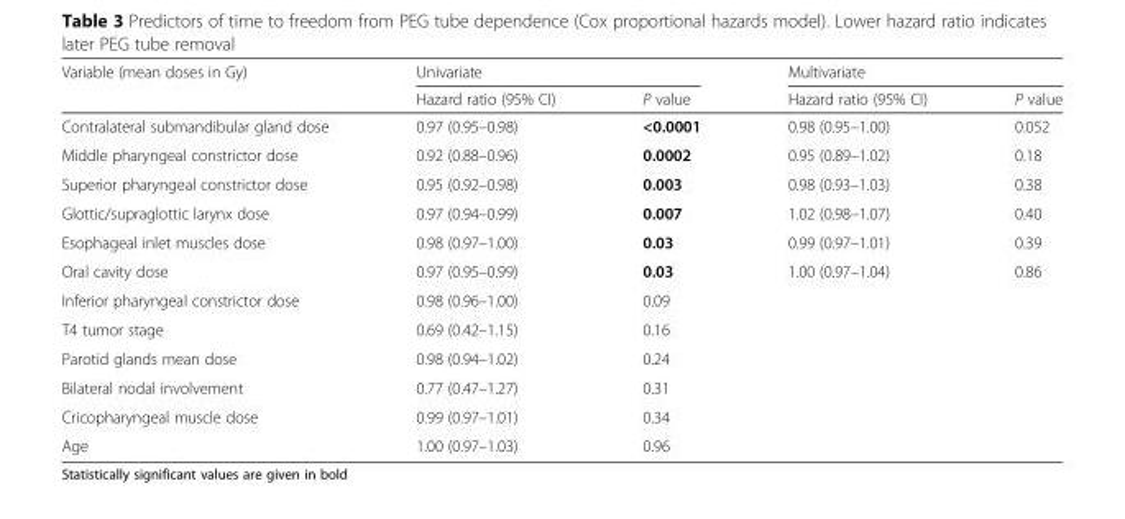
<table><thead><tr><td rowspan="2">Variable (mean doses in Gy)</td><td colspan="2">Univariate</td><td colspan="2">Multivariate</td></tr><tr><td>Hazard ratio (95% CI)</td><td>P value</td><td>Hazard ratio (95% CI)</td><td>P value</td></tr></thead><tbody><tr><td>Contralateral submandibular gland dose</td><td>0.97 (0.95–0.98)</td><td>&lt;0.0001</td><td>0.98 (0.95–1.00)</td><td>0.052</td></tr><tr><td>Middle pharyngeal constrictor dose</td><td>0.92 (0.88–0.96)</td><td>0.0002</td><td>0.95 (0.89–1.02)</td><td>0.18</td></tr><tr><td>Superior pharyngeal constrictor dose</td><td>0.95 (0.92–0.98)</td><td>0.003</td><td>0.98 (0.93–1.03)</td><td>0.38</td></tr><tr><td>Glottic/supraglottic larynx dose</td><td>0.97 (0.94–0.99)</td><td>0.007</td><td>1.02 (0.98–1.07)</td><td>0.40</td></tr><tr><td>Esophageal inlet muscles dose</td><td>0.98 (0.97–1.00)</td><td>0.03</td><td>0.99 (0.97–1.01)</td><td>0.39</td></tr><tr><td>Oral cavity dose</td><td>0.97 (0.95–0.99)</td><td>0.03</td><td>1.00 (0.97–1.04)</td><td>0.86</td></tr><tr><td>Inferior pharyngeal constrictor dose</td><td>0.98 (0.96–1.00)</td><td>0.09</td><td></td><td></td></tr><tr><td>T4 tumor stage</td><td>0.69 (0.42–1.15)</td><td>0.16</td><td></td><td></td></tr><tr><td>Parotid glands mean dose</td><td>0.98 (0.94–1.02)</td><td>0.24</td><td></td><td></td></tr><tr><td>Bilateral nodal involvement</td><td>0.77 (0.47–1.27)</td><td>0.31</td><td></td><td></td></tr><tr><td>Cricopharyngeal muscle dose</td><td>0.99 (0.97–1.01)</td><td>0.34</td><td></td><td></td></tr><tr><td>Age</td><td>1.00 (0.97–1.03)</td><td>0.96</td><td></td><td></td></tr></tbody></table>